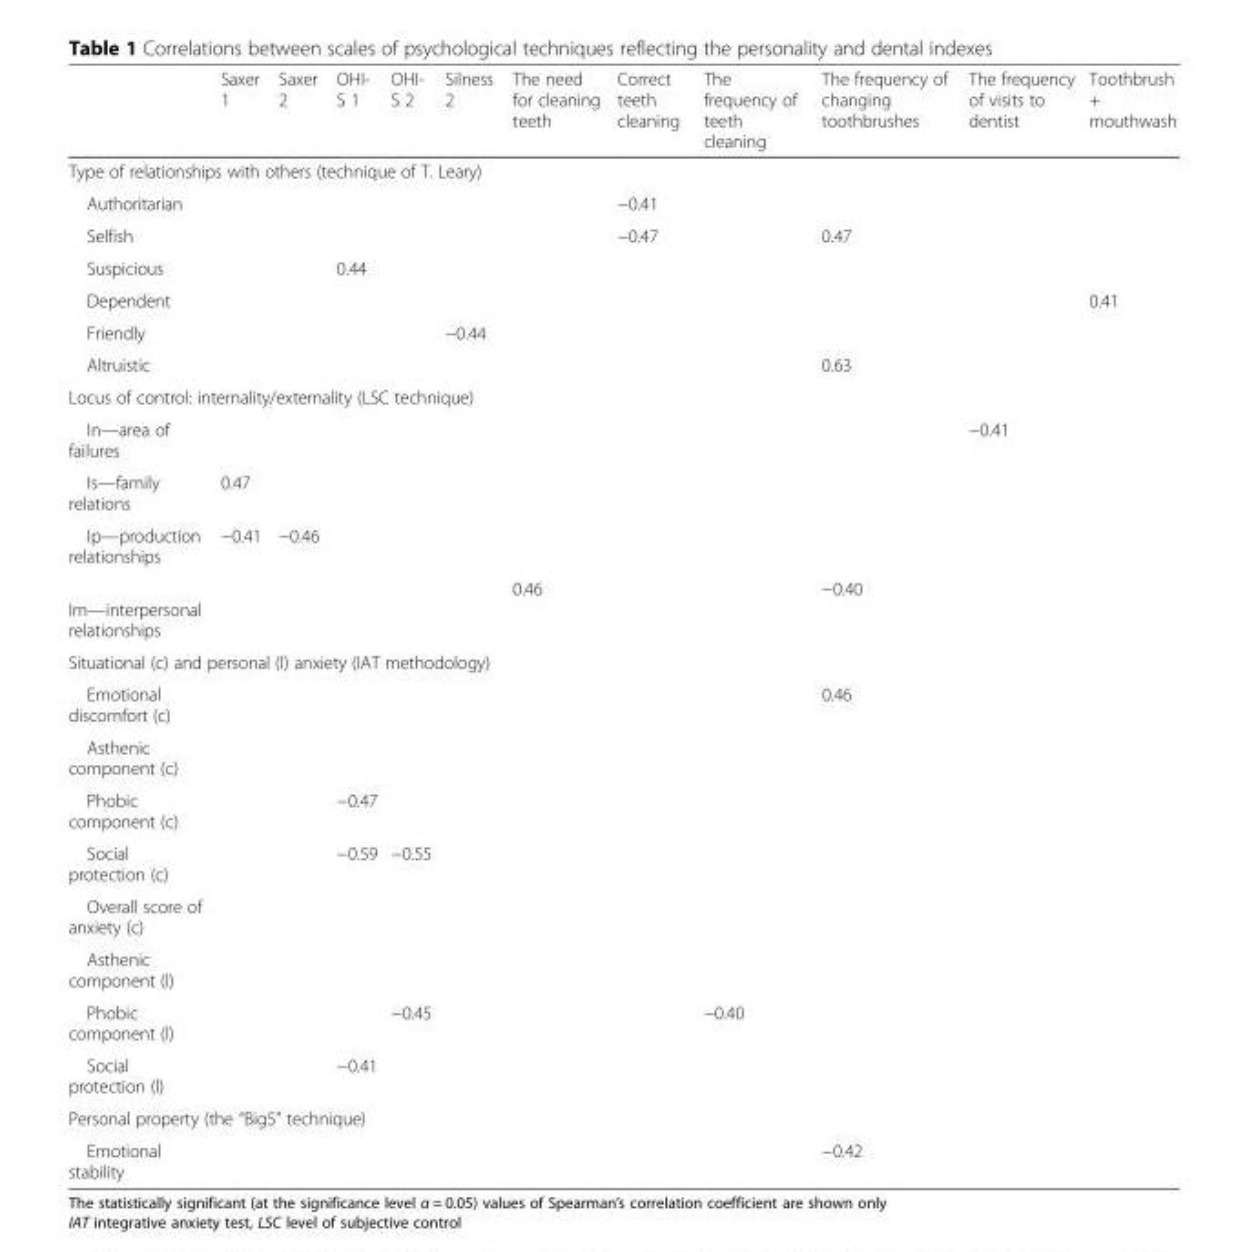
<table><thead><tr><td></td><td>Saxer 1</td><td>Saxer 2</td><td>OHI- S 1</td><td>OHI- S 2</td><td>Silness 2</td><td>The need for cleaning teeth</td><td>Correct teeth cleaning</td><td>The frequency of teeth cleaning</td><td>The frequency of changing toothbrushes</td><td>The frequency of visits to dentist</td><td>Toothbrush + mouthwash</td></tr></thead><tbody><tr><td colspan="12">Type of relationships with others (technique of T. Leary)</td></tr><tr><td>Authoritarian</td><td></td><td></td><td></td><td></td><td></td><td></td><td>−0.41</td><td></td><td></td><td></td><td></td></tr><tr><td>Selfish</td><td></td><td></td><td></td><td></td><td></td><td></td><td>−0.47</td><td></td><td>0.47</td><td></td><td></td></tr><tr><td>Suspicious</td><td></td><td></td><td>0.44</td><td></td><td></td><td></td><td></td><td></td><td></td><td></td><td></td></tr><tr><td>Dependent</td><td></td><td></td><td></td><td></td><td></td><td></td><td></td><td></td><td></td><td></td><td>0.41</td></tr><tr><td>Friendly</td><td></td><td></td><td></td><td></td><td>−0.44</td><td></td><td></td><td></td><td></td><td></td><td></td></tr><tr><td>Altruistic</td><td></td><td></td><td></td><td></td><td></td><td></td><td></td><td></td><td>0.63</td><td></td><td></td></tr><tr><td colspan="12">Locus of control: internality/externality (LSC technique)</td></tr><tr><td>In—area of failures</td><td></td><td></td><td></td><td></td><td></td><td></td><td></td><td></td><td></td><td>−0.41</td><td></td></tr><tr><td>Is—family relations</td><td>0.47</td><td></td><td></td><td></td><td></td><td></td><td></td><td></td><td></td><td></td><td></td></tr><tr><td>Ip—production relationships</td><td>−0.41</td><td>−0.46</td><td></td><td></td><td></td><td></td><td></td><td></td><td></td><td></td><td></td></tr><tr><td>Im—interpersonal relationships</td><td></td><td></td><td></td><td></td><td></td><td>0.46</td><td></td><td></td><td>−0.40</td><td></td><td></td></tr><tr><td colspan="12">Situational (c) and personal (l) anxiety (IAT methodology)</td></tr><tr><td>Emotional discomfort (c)</td><td></td><td></td><td></td><td></td><td></td><td></td><td></td><td></td><td>0.46</td><td></td><td></td></tr><tr><td colspan="12">Asthenic component (c)</td></tr><tr><td>Phobic component (c)</td><td></td><td></td><td>−0.47</td><td></td><td></td><td></td><td></td><td></td><td></td><td></td><td></td></tr><tr><td>Social protection (c)</td><td></td><td></td><td>−0.59</td><td>−0.55</td><td></td><td></td><td></td><td></td><td></td><td></td><td></td></tr><tr><td colspan="12">Overall score of anxiety (c)</td></tr><tr><td colspan="12">Asthenic component (l)</td></tr><tr><td>Phobic component (l)</td><td></td><td></td><td></td><td>−0.45</td><td></td><td></td><td></td><td>−0.40</td><td></td><td></td><td></td></tr><tr><td>Social protection (l)</td><td></td><td></td><td>−0.41</td><td></td><td></td><td></td><td></td><td></td><td></td><td></td><td></td></tr><tr><td colspan="12">Personal property (the “Big5” technique)</td></tr><tr><td>Emotional stability</td><td></td><td></td><td></td><td></td><td></td><td></td><td></td><td></td><td>−0.42</td><td></td><td></td></tr></tbody></table>